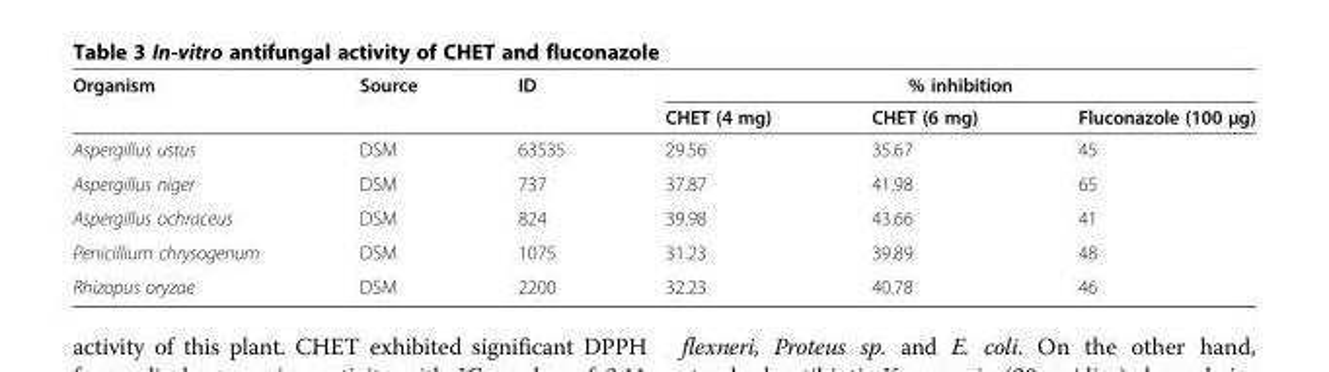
<table><thead><tr><td rowspan="2">Organism</td><td rowspan="2">Source</td><td rowspan="2">ID</td><td colspan="3">% inhibition</td></tr><tr><td>CHET (4 mg)</td><td>CHET (6 mg)</td><td>Fluconazole (100 μg)</td></tr></thead><tbody><tr><td>Aspergillus ustus</td><td>DSM</td><td>63535</td><td>29.56</td><td>35.67</td><td>45</td></tr><tr><td>Aspergillus niger</td><td>DSM</td><td>737</td><td>37.87</td><td>41.98</td><td>65</td></tr><tr><td>Aspergillus ochraceus</td><td>DSM</td><td>824</td><td>39.98</td><td>43.66</td><td>41</td></tr><tr><td>Penicillium chrysogenum</td><td>DSM</td><td>1075</td><td>31.23</td><td>39.89</td><td>48</td></tr><tr><td>Rhizopus oryzae</td><td>DSM</td><td>2200</td><td>32.23</td><td>40.78</td><td>46</td></tr></tbody></table>